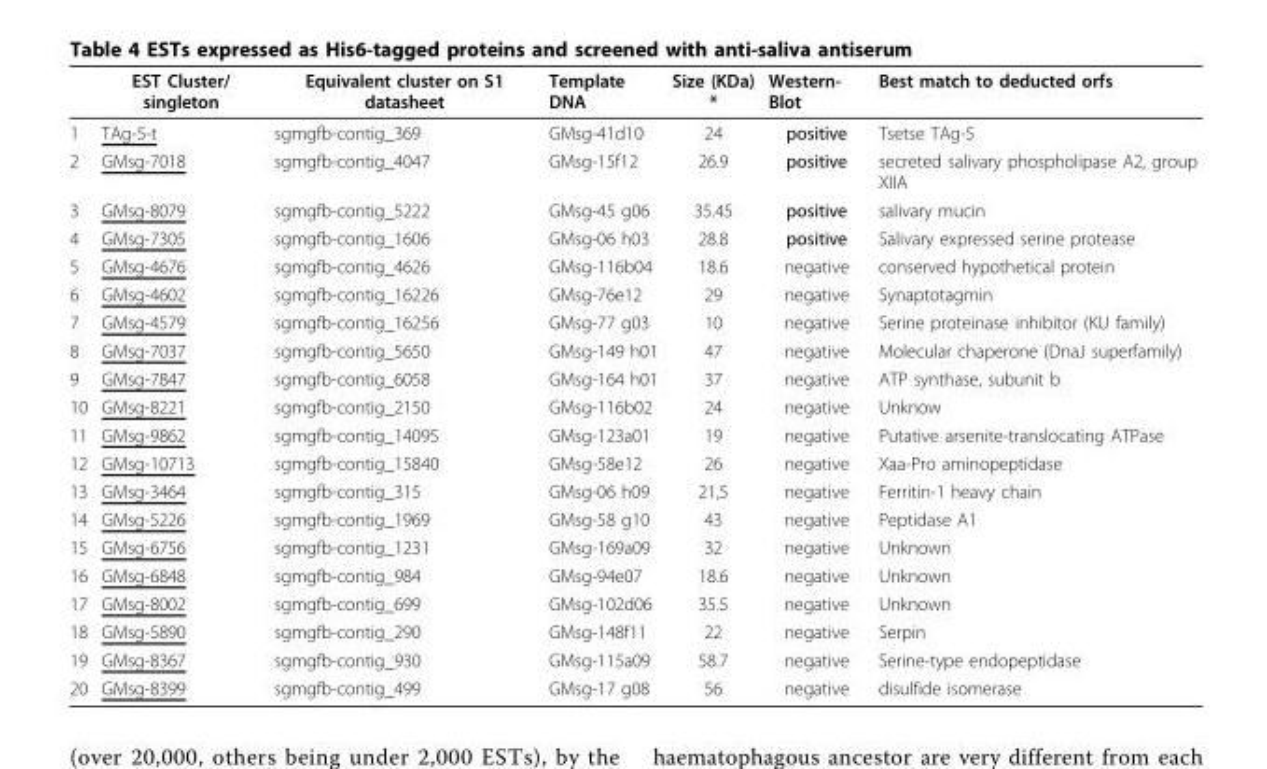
<table><thead><tr><td></td><td>EST Cluster/ singleton</td><td>Equivalent cluster on S1 datasheet</td><td>Template DNA</td><td>Size (KDa) *</td><td>Western- Blot</td><td>Best match to deducted orfs</td></tr></thead><tbody><tr><td>1</td><td>TAg-5-t</td><td>sgmgfb-contig_369</td><td>GMsg-41d10</td><td>24</td><td>positive</td><td>Tsetse TAg-5</td></tr><tr><td>2</td><td>GMsg-7018</td><td>sgmgfb-contig_4047</td><td>GMsg-15f12</td><td>26.9</td><td>positive</td><td>secreted salivary phospholipase A2, group XIIA</td></tr><tr><td>3</td><td>GMsg-8079</td><td>sgmgfb-contig_5222</td><td>GMsg-45 g06</td><td>35.45</td><td>positive</td><td>salivary mucin</td></tr><tr><td>4</td><td>GMsg-7305</td><td>sgmgfb-contig_1606</td><td>GMsg-06 h03</td><td>28.8</td><td>positive</td><td>Salivary expressed serine protease</td></tr><tr><td>5</td><td>GMsg-4676</td><td>sgmgfb-contig_4626</td><td>GMsg-116b04</td><td>18.6</td><td>negative</td><td>conserved hypothetical protein</td></tr><tr><td>6</td><td>GMsg-4602</td><td>sgmgfb-contig_16226</td><td>GMsg-76e12</td><td>29</td><td>negative</td><td>Synaptotagmin</td></tr><tr><td>7</td><td>GMsg-4579</td><td>sgmgfb-contig_16256</td><td>GMsg-77 g03</td><td>10</td><td>negative</td><td>Serine proteinase inhibitor (KU family)</td></tr><tr><td>8</td><td>GMsg-7037</td><td>sgmgfb-contig_5650</td><td>GMsg-149 h01</td><td>47</td><td>negative</td><td>Molecular chaperone (DnaJ superfamily)</td></tr><tr><td>9</td><td>GMsg-7847</td><td>sgmgfb-contig_6058</td><td>GMsg-164 h01</td><td>37</td><td>negative</td><td>ATP synthase, subunit b</td></tr><tr><td>10</td><td>GMsg-8221</td><td>sgmgfb-contig_2150</td><td>GMsg-116b02</td><td>24</td><td>negative</td><td>Unknow</td></tr><tr><td>11</td><td>GMsg-9862</td><td>sgmgfb-contig_14095</td><td>GMsg-123a01</td><td>19</td><td>negative</td><td>Putative arsenite-translocating ATPase</td></tr><tr><td>12</td><td>GMsg-10713</td><td>sgmgfb-contig_15840</td><td>GMsg-58e12</td><td>26</td><td>negative</td><td>Xaa-Pro aminopeptidase</td></tr><tr><td>13</td><td>GMsg-3464</td><td>sgmgfb-contig_315</td><td>GMsg-06 h09</td><td>21,5</td><td>negative</td><td>Ferritin-1 heavy chain</td></tr><tr><td>14</td><td>GMsg-5226</td><td>sgmgfb-contig_1969</td><td>GMsg-58 g10</td><td>43</td><td>negative</td><td>Peptidase A1</td></tr><tr><td>15</td><td>GMsg-6756</td><td>sgmgfb-contig_1231</td><td>GMsg-169a09</td><td>32</td><td>negative</td><td>Unknown</td></tr><tr><td>16</td><td>GMsg-6848</td><td>sgmgfb-contig_984</td><td>GMsg-94e07</td><td>18.6</td><td>negative</td><td>Unknown</td></tr><tr><td>17</td><td>GMsg-8002</td><td>sgmgfb-contig_699</td><td>GMsg-102d06</td><td>35.5</td><td>negative</td><td>Unknown</td></tr><tr><td>18</td><td>GMsg-5890</td><td>sgmgfb-contig_290</td><td>GMsg-148f11</td><td>22</td><td>negative</td><td>Serpin</td></tr><tr><td>19</td><td>GMsg-8367</td><td>sgmgfb-contig_930</td><td>GMsg-115a09</td><td>58.7</td><td>negative</td><td>Serine-type endopeptidase</td></tr><tr><td>20</td><td>GMsg-8399</td><td>sgmgfb-contig_499</td><td>GMsg-17 g08</td><td>56</td><td>negative</td><td>disulfide isomerase</td></tr></tbody></table>